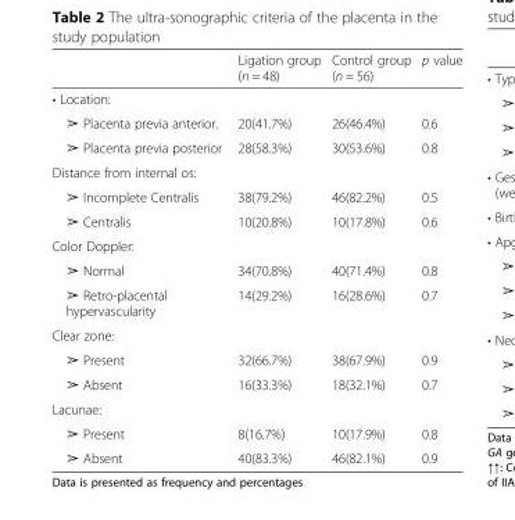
<table><thead><tr><td></td><td>Ligation group (n = 48)</td><td>Control group (n = 56)</td><td>p value</td></tr></thead><tbody><tr><td colspan="4">• Location:</td></tr><tr><td>➢ Placenta previa anterior.</td><td>20(41.7%)</td><td>26(46.4%)</td><td>0.6</td></tr><tr><td>➢ Placenta previa posterior</td><td>28(58.3%)</td><td>30(53.6%)</td><td>0.8</td></tr><tr><td colspan="4">Distance from internal os:</td></tr><tr><td>➢ Incomplete Centralis</td><td>38(79.2%)</td><td>46(82.2%)</td><td>0.5</td></tr><tr><td>➢ Centralis</td><td>10(20.8%)</td><td>10(17.8%)</td><td>0.6</td></tr><tr><td colspan="4">Color Doppler:</td></tr><tr><td>➢ Normal</td><td>34(70.8%)</td><td>40(71.4%)</td><td>0.8</td></tr><tr><td>➢ Retro-placental hypervascularity</td><td>14(29.2%)</td><td>16(28.6%)</td><td>0.7</td></tr><tr><td colspan="4">Clear zone:</td></tr><tr><td>➢ Present</td><td>32(66.7%)</td><td>38(67.9%)</td><td>0.9</td></tr><tr><td>➢ Absent</td><td>16(33.3%)</td><td>18(32.1%)</td><td>0.7</td></tr><tr><td colspan="4">Lacunae:</td></tr><tr><td>➢ Present</td><td>8(16.7%)</td><td>10(17.9%)</td><td>0.8</td></tr><tr><td>➢ Absent</td><td>40(83.3%)</td><td>46(82.1%)</td><td>0.9</td></tr></tbody></table>